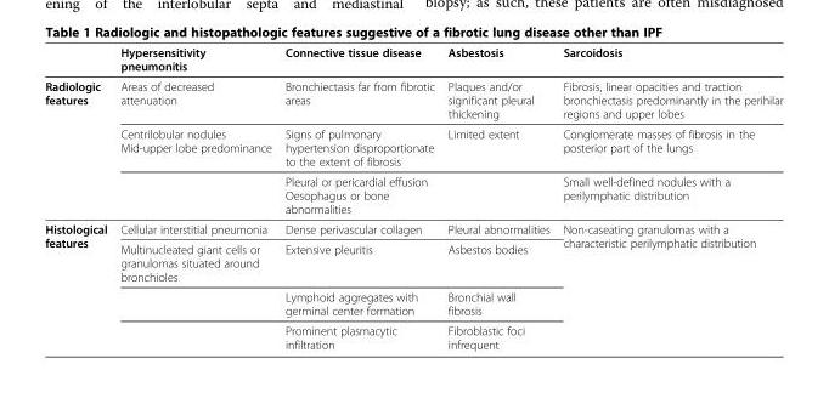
<table><thead><tr><td></td><td>Hypersensitivity pneumonitis</td><td>Connective tissue disease</td><td>Asbestosis</td><td>Sarcoidosis</td></tr></thead><tbody><tr><td rowspan="3">Radiologic features</td><td>Areas of decreased attenuation</td><td>Bronchiectasis far from fibrotic areas</td><td>Plaques and/or significant pleural thickening</td><td>Fibrosis, linear opacities and traction bronchiectasis predominantly in the perihilar regions and upper lobes</td></tr><tr><td>Centrilobular nodules Mid-upper lobe predominance</td><td>Signs of pulmonary hypertension disproportionate to the extent of fibrosis</td><td>Limited extent</td><td>Conglomerate masses of fibrosis in the posterior part of the lungs</td></tr><tr><td></td><td>Pleural or pericardial effusion Oesophagus or bone abnormalities</td><td></td><td>Small well-defined nodules with a perilymphatic distribution</td></tr><tr><td rowspan="4">Histological features</td><td>Cellular interstitial pneumonia</td><td>Dense perivascular collagen</td><td>Pleural abnormalities</td><td rowspan="4">Non-caseating granulomas with a characteristic perilymphatic distribution</td></tr><tr><td>Multinucleated giant cells or granulomas situated around bronchioles</td><td>Extensive pleuritis</td><td>Asbestos bodies</td></tr><tr><td></td><td>Lymphoid aggregates with germinal center formation</td><td>Bronchial wall fibrosis</td></tr><tr><td></td><td>Prominent plasmacytic infiltration</td><td>Fibroblastic foci infrequent</td></tr></tbody></table>